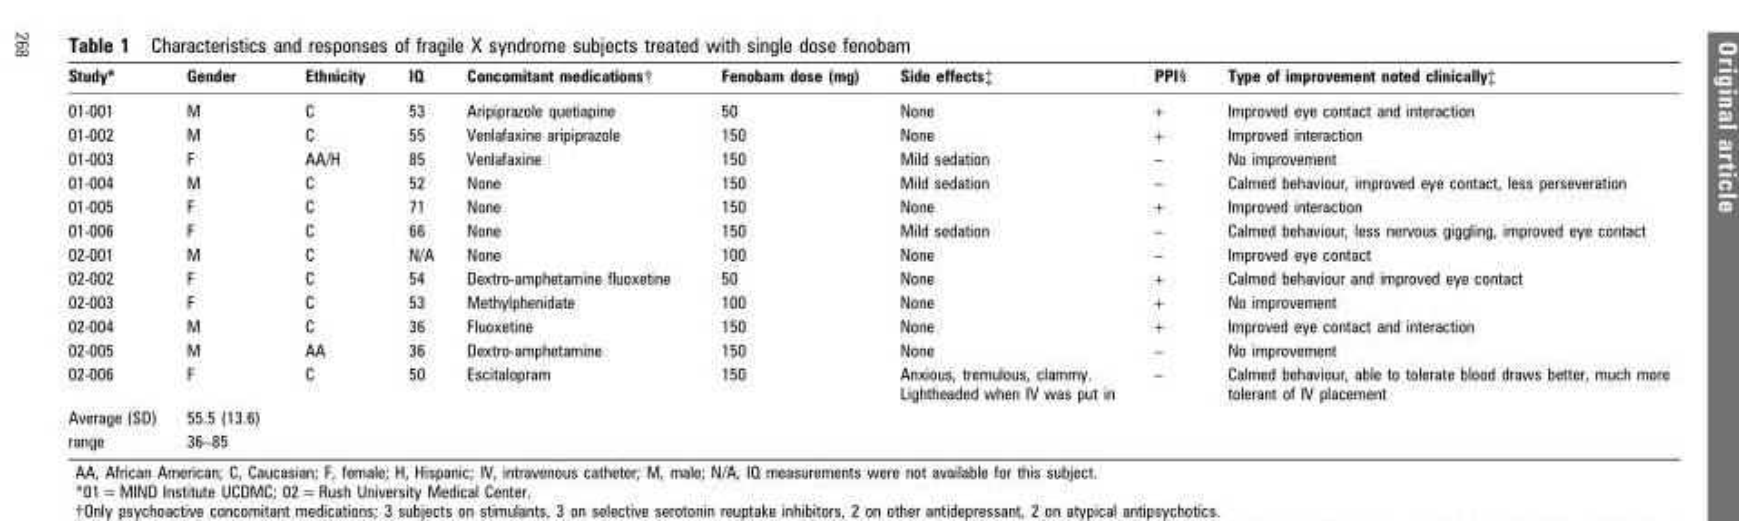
<table><thead><tr><td>Study*</td><td>Gender</td><td>Ethnicity</td><td>IQ</td><td>Concomitant medications†</td><td>Fenobam dose (mg)</td><td>Side effects‡</td><td>PPI§</td><td>Type of improvement noted clinically‡</td></tr></thead><tbody><tr><td>01-001</td><td>M</td><td>C</td><td>53</td><td>Aripiprazole quetiapine</td><td>50</td><td>None</td><td>+</td><td>Improved eye contact and interaction</td></tr><tr><td>01-002</td><td>M</td><td>C</td><td>55</td><td>Venlafaxine aripiprazole</td><td>150</td><td>None</td><td>+</td><td>Improved interaction</td></tr><tr><td>01-003</td><td>F</td><td>AA/H</td><td>85</td><td>Venlafaxine</td><td>150</td><td>Mild sedation</td><td>–</td><td>No improvement</td></tr><tr><td>01-004</td><td>M</td><td>C</td><td>52</td><td>None</td><td>150</td><td>Mild sedation</td><td>–</td><td>Calmed behaviour, improved eye contact, less perseveration</td></tr><tr><td>01-005</td><td>F</td><td>C</td><td>71</td><td>None</td><td>150</td><td>None</td><td>+</td><td>Improved interaction</td></tr><tr><td>01-006</td><td>F</td><td>C</td><td>66</td><td>None</td><td>150</td><td>Mild sedation</td><td>–</td><td>Calmed behaviour, less nervous giggling, improved eye contact</td></tr><tr><td>02-001</td><td>M</td><td>C</td><td>N/A</td><td>None</td><td>100</td><td>None</td><td>–</td><td>Improved eye contact</td></tr><tr><td>02-002</td><td>F</td><td>C</td><td>54</td><td>Dextro-amphetamine fluoxetine</td><td>50</td><td>None</td><td>+</td><td>Calmed behaviour and improved eye contact</td></tr><tr><td>02-003</td><td>F</td><td>C</td><td>53</td><td>Methylphenidate</td><td>100</td><td>None</td><td>+</td><td>No improvement</td></tr><tr><td>02-004</td><td>M</td><td>C</td><td>36</td><td>Fluoxetine</td><td>150</td><td>None</td><td>+</td><td>Improved eye contact and interaction</td></tr><tr><td>02-005</td><td>M</td><td>AA</td><td>36</td><td>Dextro-amphetamine</td><td>150</td><td>None</td><td>–</td><td>No improvement</td></tr><tr><td>02-006</td><td>F</td><td>C</td><td>50</td><td>Escitalopram</td><td>150</td><td>Anxious, tremulous, clammy. Lightheaded when IV was put in</td><td>–</td><td>Calmed behaviour, able to tolerate blood draws better, much more tolerant of IV placement</td></tr><tr><td>Average (SD)</td><td>55.5 (13.6)</td><td></td><td></td><td></td><td></td><td></td><td></td><td></td></tr><tr><td>range</td><td>36–85</td><td></td><td></td><td></td><td></td><td></td><td></td><td></td></tr></tbody></table>